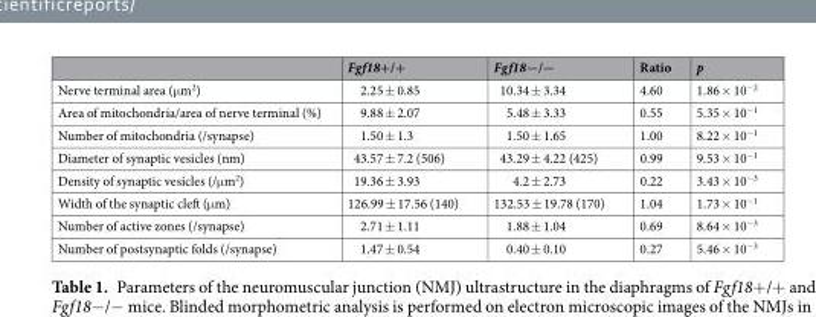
<table><thead><tr><td></td><td>Fgf18+/+</td><td>Fgf18−/−</td><td>Ratio</td><td>p</td></tr></thead><tbody><tr><td>Nerve terminal area (μm<sup>2</sup>)</td><td>2.25 ± 0.85</td><td>10.34 ± 3.34</td><td>4.60</td><td>1.86 × 10<sup>−2</sup></td></tr><tr><td>Area of mitochondria/area of nerve terminal (%)</td><td>9.88 ± 2.07</td><td>5.48 ± 3.33</td><td>0.55</td><td>5.35 × 10<sup>−1</sup></td></tr><tr><td>Number of mitochondria (/synapse)</td><td>1.50 ± 1.3</td><td>1.50 ± 1.65</td><td>1.00</td><td>8.22 × 10<sup>−1</sup></td></tr><tr><td>Diameter of synaptic vesicles (nm)</td><td>43.57 ± 7.2 (506)</td><td>43.29 ± 4.22 (425)</td><td>0.99</td><td>9.53 × 10<sup>−1</sup></td></tr><tr><td>Density of synaptic vesicles (/μm<sup>2</sup>)</td><td>19.36 ± 3.93</td><td>4.2 ± 2.73</td><td>0.22</td><td>3.43 × 10<sup>−3</sup></td></tr><tr><td>Width of the synaptic cleft (μm)</td><td>126.99 ± 17.56 (140)</td><td>132.53 ± 19.78 (170)</td><td>1.04</td><td>1.73 × 10<sup>−1</sup></td></tr><tr><td>Number of active zones (/synapse)</td><td>2.71 ± 1.11</td><td>1.88 ± 1.04</td><td>0.69</td><td>8.64 × 10<sup>−3</sup></td></tr><tr><td>Number of postsynaptic folds (/synapse)</td><td>1.47 ± 0.54</td><td>0.40 ± 0.10</td><td>0.27</td><td>5.46 × 10<sup>−3</sup></td></tr></tbody></table>